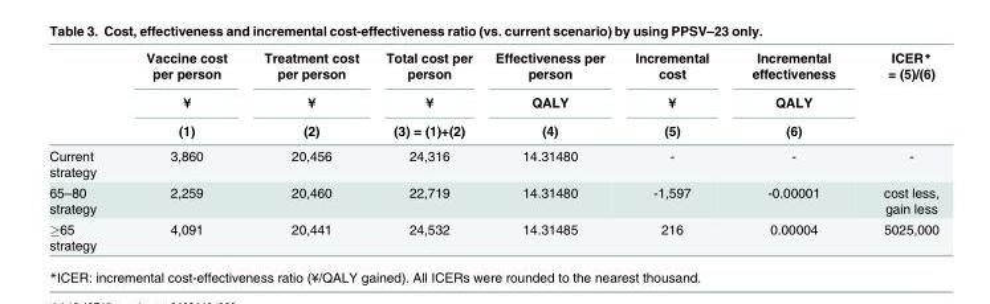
<table><thead><tr><td rowspan="3"></td><td rowspan="3">Vaccine cost per person ¥ (1)</td><td rowspan="3">Treatment cost per person ¥ (2)</td><td rowspan="3">Total cost per person ¥ (3) = (1)+(2)</td><td rowspan="3">Effectiveness per person QALY (4)</td><td rowspan="3">Incremental cost ¥ (5)</td><td rowspan="3">Incremental effectiveness QALY (6)</td><td rowspan="3">ICER* = (5)/(6)</td></tr><tr></tr><tr></tr></thead><tbody><tr><td>Current strategy</td><td>3,860</td><td>20,456</td><td>24,316</td><td>14.31480</td><td>-</td><td>-</td><td>-</td></tr><tr><td>65–80 strategy</td><td>2,259</td><td>20,460</td><td>22,719</td><td>14.31480</td><td>-1,597</td><td>-0.00001</td><td>cost less, gain less</td></tr><tr><td>≥65 strategy</td><td>4,091</td><td>20,441</td><td>24,532</td><td>14.31485</td><td>216</td><td>0.00004</td><td>5025,000</td></tr></tbody></table>